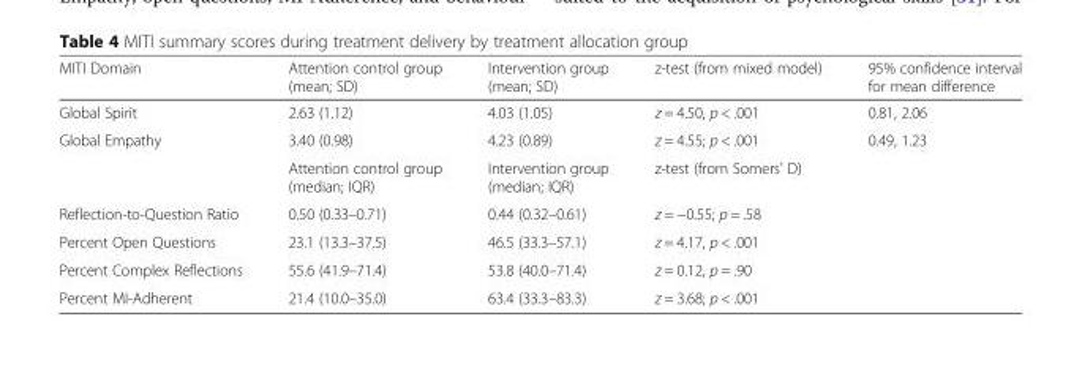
<table><thead><tr><td>MITI Domain</td><td>Attention control group (mean; SD)</td><td>Intervention group (mean; SD)</td><td>z-test (from mixed model)</td><td>95% confidence interval for mean difference</td></tr></thead><tbody><tr><td>Global Spirit</td><td>2.63 (1.12)</td><td>4.03 (1.05)</td><td>z = 4.50, p &lt; .001</td><td>0.81, 2.06</td></tr><tr><td rowspan="2">Global Empathy</td><td>3.40 (0.98)</td><td>4.23 (0.89)</td><td>z = 4.55; p &lt; .001</td><td>0.49, 1.23</td></tr><tr><td>Attention control group (median; IQR)</td><td>Intervention group (median; IQR)</td><td>z-test (from Somers’ D)</td><td></td></tr><tr><td>Reflection-to-Question Ratio</td><td>0.50 (0.33–0.71)</td><td>0.44 (0.32–0.61)</td><td>z = −0.55; p = .58</td><td></td></tr><tr><td>Percent Open Questions</td><td>23.1 (13.3–37.5)</td><td>46.5 (33.3–57.1)</td><td>z = 4.17, p &lt; .001</td><td></td></tr><tr><td>Percent Complex Reflections</td><td>55.6 (41.9–71.4)</td><td>53.8 (40.0–71.4)</td><td>z = 0.12, p = .90</td><td></td></tr><tr><td>Percent MI-Adherent</td><td>21.4 (10.0–35.0)</td><td>63.4 (33.3–83.3)</td><td>z = 3.68; p &lt; .001</td><td></td></tr></tbody></table>